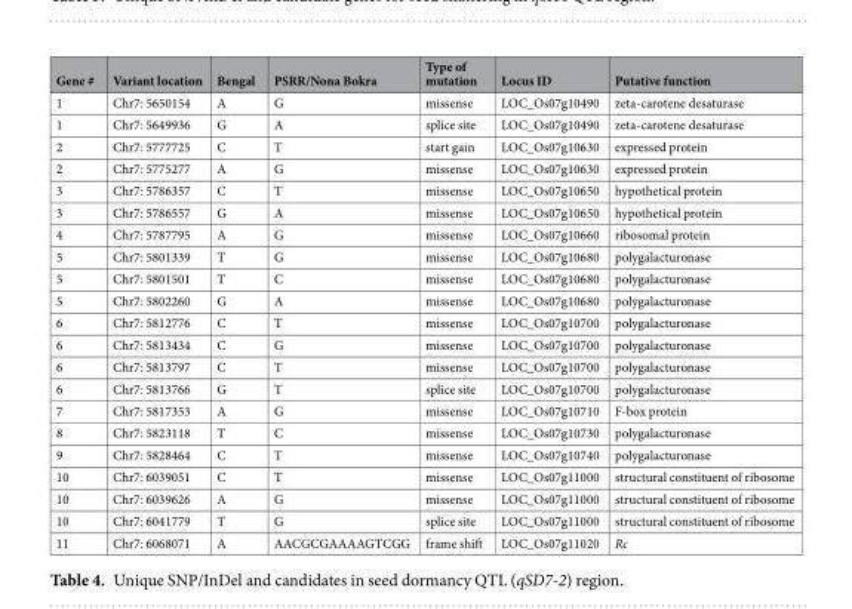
<table><thead><tr><td>Gene #</td><td>Variant location</td><td>Bengal</td><td>PSRR/Nona Bokra</td><td>Type of mutation</td><td>Locus ID</td><td>Putative function</td></tr></thead><tbody><tr><td>1</td><td>Chr7: 5650154</td><td>A</td><td>G</td><td>missense</td><td>LOC_Os07g10490</td><td>zeta-carotene desaturase</td></tr><tr><td>1</td><td>Chr7: 5649936</td><td>G</td><td>A</td><td>splice site</td><td>LOC_Os07g10490</td><td>zeta-carotene desaturase</td></tr><tr><td>2</td><td>Chr7: 5777725</td><td>C</td><td>T</td><td>start gain</td><td>LOC_Os07g10630</td><td>expressed protein</td></tr><tr><td>2</td><td>Chr7: 5775277</td><td>A</td><td>G</td><td>missense</td><td>LOC_Os07g10630</td><td>expressed protein</td></tr><tr><td>3</td><td>Chr7: 5786357</td><td>C</td><td>T</td><td>missense</td><td>LOC_Os07g10650</td><td>hypothetical protein</td></tr><tr><td>3</td><td>Chr7: 5786557</td><td>G</td><td>A</td><td>missense</td><td>LOC_Os07g10650</td><td>hypothetical protein</td></tr><tr><td>4</td><td>Chr7: 5787795</td><td>A</td><td>G</td><td>missense</td><td>LOC_Os07g10660</td><td>ribosomal protein</td></tr><tr><td>5</td><td>Chr7: 5801339</td><td>T</td><td>G</td><td>missense</td><td>LOC_Os07g10680</td><td>polygalacturonase</td></tr><tr><td>5</td><td>Chr7: 5801501</td><td>T</td><td>C</td><td>missense</td><td>LOC_Os07g10680</td><td>polygalacturonase</td></tr><tr><td>5</td><td>Chr7: 5802260</td><td>G</td><td>A</td><td>missense</td><td>LOC_Os07g10680</td><td>polygalacturonase</td></tr><tr><td>6</td><td>Chr7: 5812776</td><td>C</td><td>T</td><td>missense</td><td>LOC_Os07g10700</td><td>polygalacturonase</td></tr><tr><td>6</td><td>Chr7: 5813434</td><td>C</td><td>G</td><td>missense</td><td>LOC_Os07g10700</td><td>polygalacturonase</td></tr><tr><td>6</td><td>Chr7: 5813797</td><td>C</td><td>T</td><td>missense</td><td>LOC_Os07g10700</td><td>polygalacturonase</td></tr><tr><td>6</td><td>Chr7: 5813766</td><td>G</td><td>T</td><td>splice site</td><td>LOC_Os07g10700</td><td>polygalacturonase</td></tr><tr><td>7</td><td>Chr7: 5817353</td><td>A</td><td>G</td><td>missense</td><td>LOC_Os07g10710</td><td>F-box protein</td></tr><tr><td>8</td><td>Chr7: 5823118</td><td>T</td><td>C</td><td>missense</td><td>LOC_Os07g10730</td><td>polygalacturonase</td></tr><tr><td>9</td><td>Chr7: 5828464</td><td>C</td><td>T</td><td>missense</td><td>LOC_Os07g10740</td><td>polygalacturonase</td></tr><tr><td>10</td><td>Chr7: 6039051</td><td>C</td><td>T</td><td>missense</td><td>LOC_Os07g11000</td><td>structural constituent of ribosome</td></tr><tr><td>10</td><td>Chr7: 6039626</td><td>A</td><td>G</td><td>missense</td><td>LOC_Os07g11000</td><td>structural constituent of ribosome</td></tr><tr><td>10</td><td>Chr7: 6041779</td><td>T</td><td>G</td><td>splice site</td><td>LOC_Os07g11000</td><td>structural constituent of ribosome</td></tr><tr><td>11</td><td>Chr7: 6068071</td><td>A</td><td>AACGCGAAAAGTCGG</td><td>frame shift</td><td>LOC_Os07g11020</td><td>Rc</td></tr></tbody></table>